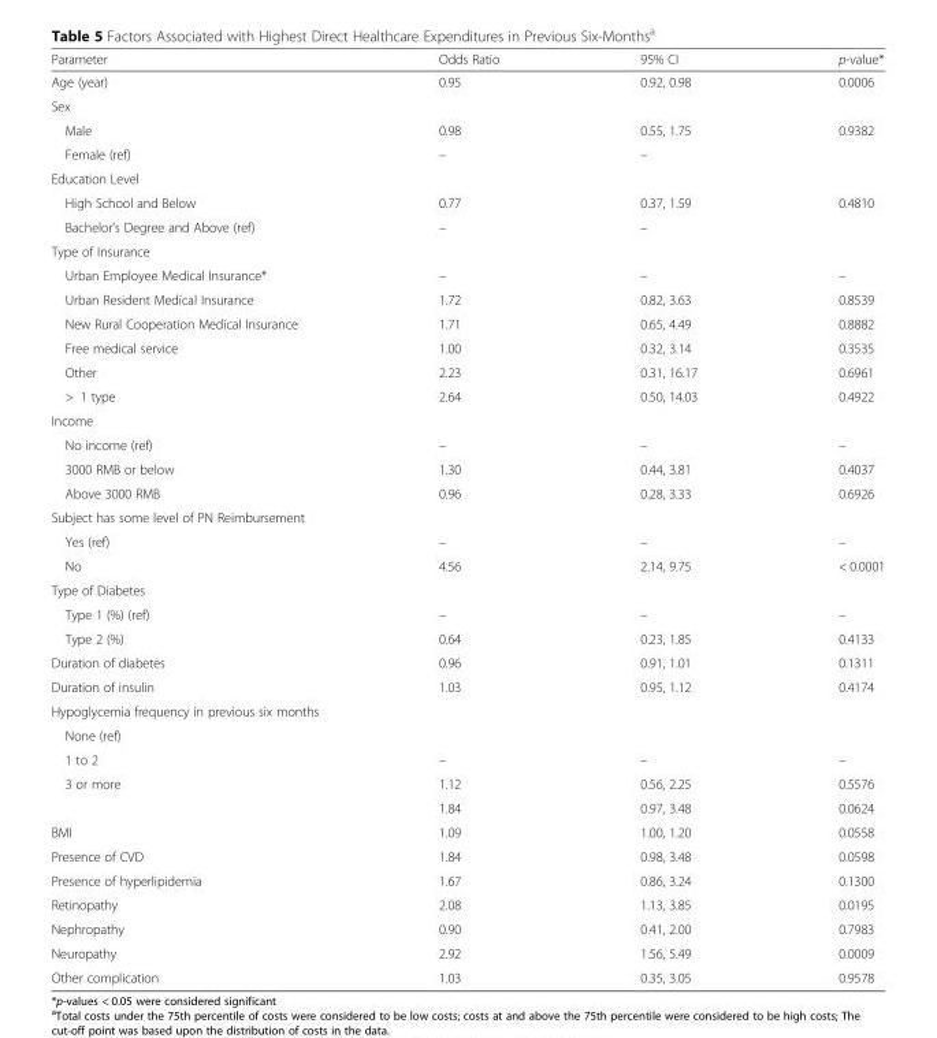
<table><thead><tr><td>Parameter</td><td>Odds Ratio</td><td>95% CI</td><td>p-value*</td></tr></thead><tbody><tr><td>Age (year)</td><td>0.95</td><td>0.92, 0.98</td><td>0.0006</td></tr><tr><td colspan="4">Sex</td></tr><tr><td>Male</td><td>0.98</td><td>0.55, 1.75</td><td>0.9382</td></tr><tr><td>Female (ref)</td><td>–</td><td>–</td><td></td></tr><tr><td colspan="4">Education Level</td></tr><tr><td>High School and Below</td><td>0.77</td><td>0.37, 1.59</td><td>0.4810</td></tr><tr><td>Bachelor’s Degree and Above (ref)</td><td>–</td><td>–</td><td></td></tr><tr><td colspan="4">Type of Insurance</td></tr><tr><td>Urban Employee Medical Insurance*</td><td>–</td><td>–</td><td>–</td></tr><tr><td>Urban Resident Medical Insurance</td><td>1.72</td><td>0.82, 3.63</td><td>0.8539</td></tr><tr><td>New Rural Cooperation Medical Insurance</td><td>1.71</td><td>0.65, 4.49</td><td>0.8882</td></tr><tr><td>Free medical service</td><td>1.00</td><td>0.32, 3.14</td><td>0.3535</td></tr><tr><td>Other</td><td>2.23</td><td>0.31, 16.17</td><td>0.6961</td></tr><tr><td>&gt; 1 type</td><td>2.64</td><td>0.50, 14.03</td><td>0.4922</td></tr><tr><td colspan="4">Income</td></tr><tr><td>No income (ref)</td><td>–</td><td>–</td><td>–</td></tr><tr><td>3000 RMB or below</td><td>1.30</td><td>0.44, 3.81</td><td>0.4037</td></tr><tr><td>Above 3000 RMB</td><td>0.96</td><td>0.28, 3.33</td><td>0.6926</td></tr><tr><td colspan="4">Subject has some level of PN Reimbursement</td></tr><tr><td>Yes (ref)</td><td>–</td><td>–</td><td>–</td></tr><tr><td>No</td><td>4.56</td><td>2.14, 9.75</td><td>&lt; 0.0001</td></tr><tr><td colspan="4">Type of Diabetes</td></tr><tr><td>Type 1 (%) (ref)</td><td>–</td><td>–</td><td>–</td></tr><tr><td>Type 2 (%)</td><td>0.64</td><td>0.23, 1.85</td><td>0.4133</td></tr><tr><td>Duration of diabetes</td><td>0.96</td><td>0.91, 1.01</td><td>0.1311</td></tr><tr><td>Duration of insulin</td><td>1.03</td><td>0.95, 1.12</td><td>0.4174</td></tr><tr><td colspan="4">Hypoglycemia frequency in previous six months</td></tr><tr><td colspan="4">None (ref)</td></tr><tr><td>1 to 2</td><td>–</td><td>–</td><td>–</td></tr><tr><td rowspan="2">3 or more</td><td>1.12</td><td>0.56, 2.25</td><td>0.5576</td></tr><tr><td>1.84</td><td>0.97, 3.48</td><td>0.0624</td></tr><tr><td>BMI</td><td>1.09</td><td>1.00, 1.20</td><td>0.0558</td></tr><tr><td>Presence of CVD</td><td>1.84</td><td>0.98, 3.48</td><td>0.0598</td></tr><tr><td>Presence of hyperlipidemia</td><td>1.67</td><td>0.86, 3.24</td><td>0.1300</td></tr><tr><td>Retinopathy</td><td>2.08</td><td>1.13, 3.85</td><td>0.0195</td></tr><tr><td>Nephropathy</td><td>0.90</td><td>0.41, 2.00</td><td>0.7983</td></tr><tr><td>Neuropathy</td><td>2.92</td><td>1.56, 5.49</td><td>0.0009</td></tr><tr><td>Other complication</td><td>1.03</td><td>0.35, 3.05</td><td>0.9578</td></tr></tbody></table>